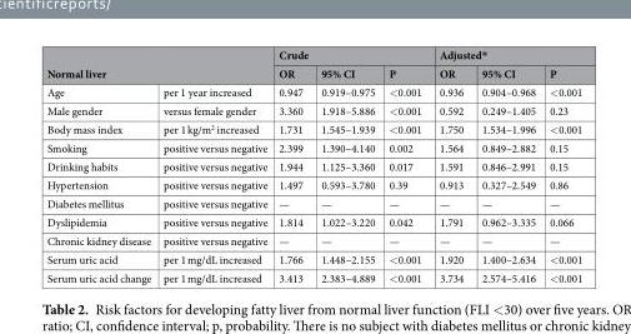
<table><thead><tr><td rowspan="2" colspan="2">Normal liver</td><td colspan="3">Crude</td><td colspan="3">Adjusted*</td></tr><tr><td rowspan="2">OR 0.947</td><td rowspan="2">95% CI 0.919–0.975</td><td rowspan="2">P &lt;0.001</td><td rowspan="2">OR 0.936</td><td rowspan="2">95% CI 0.904–0.968</td><td rowspan="2">P &lt;0.001</td></tr><tr><td>Age</td><td>per 1 year increased</td></tr></thead><tbody><tr><td>Male gender</td><td>versus female gender</td><td>3.360</td><td>1.918–5.886</td><td>&lt;0.001</td><td>0.592</td><td>0.249–1.405</td><td>0.23</td></tr><tr><td>Body mass index</td><td>per 1 kg/m<sup>2</sup> increased</td><td>1.731</td><td>1.545–1.939</td><td>&lt;0.001</td><td>1.750</td><td>1.534–1.996</td><td>&lt;0.001</td></tr><tr><td>Smoking</td><td>positive versus negative</td><td>2.399</td><td>1.390–4.140</td><td>0.002</td><td>1.564</td><td>0.849–2.882</td><td>0.15</td></tr><tr><td>Drinking habits</td><td>positive versus negative</td><td>1.944</td><td>1.125–3.360</td><td>0.017</td><td>1.591</td><td>0.846–2.991</td><td>0.15</td></tr><tr><td>Hypertension</td><td>positive versus negative</td><td>1.497</td><td>0.593–3.780</td><td>0.39</td><td>0.913</td><td>0.327–2.549</td><td>0.86</td></tr><tr><td>Diabetes mellitus</td><td>positive versus negative</td><td>—</td><td>—</td><td>—</td><td>—</td><td>—</td><td>—</td></tr><tr><td>Dyslipidemia</td><td>positive versus negative</td><td>1.814</td><td>1.022–3.220</td><td>0.042</td><td>1.791</td><td>0.962–3.335</td><td>0.066</td></tr><tr><td>Chronic kidney disease</td><td>positive versus negative</td><td>—</td><td>—</td><td>—</td><td>—</td><td>—</td><td>—</td></tr><tr><td>Serum uric acid</td><td>per 1 mg/dL increased</td><td>1.766</td><td>1.448–2.155</td><td>&lt;0.001</td><td>1.920</td><td>1.400–2.634</td><td>&lt;0.001</td></tr><tr><td>Serum uric acid change</td><td>per 1 mg/dL increased</td><td>3.413</td><td>2.383–4.889</td><td>&lt;0.001</td><td>3.734</td><td>2.574–5.416</td><td>&lt;0.001</td></tr></tbody></table>